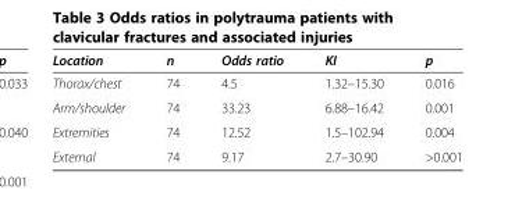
<table><thead><tr><td>Location</td><td>n</td><td>Odds ratio</td><td>KI</td><td>p</td></tr></thead><tbody><tr><td>Thorax/chest</td><td>74</td><td>4.5</td><td>1.32–15.30</td><td>0.016</td></tr><tr><td>Arm/shoulder</td><td>74</td><td>33.23</td><td>6.88–16.42</td><td>0.001</td></tr><tr><td>Extremities</td><td>74</td><td>12.52</td><td>1.5–102.94</td><td>0.004</td></tr><tr><td>External</td><td>74</td><td>9.17</td><td>2.7–30.90</td><td>&gt;0.001</td></tr></tbody></table>